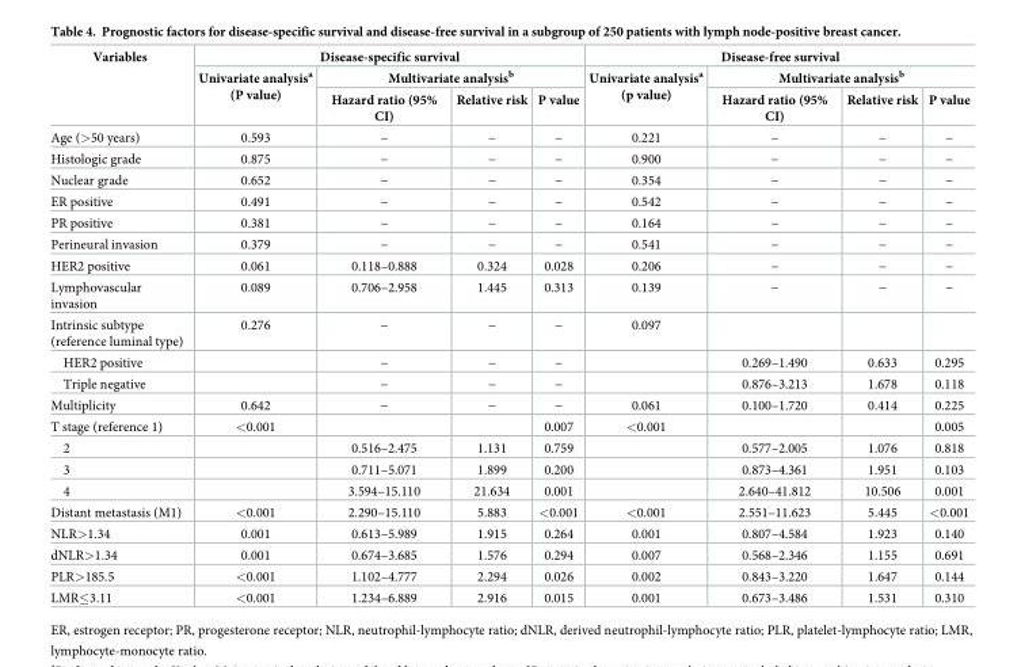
<table><thead><tr><td rowspan="3">Variables</td><td colspan="4">Disease-specific survival</td><td colspan="4">Disease-free survival</td></tr><tr><td rowspan="2">Univariate analysis<sup>a</sup> (P value)</td><td colspan="3">Multivariate analysis<sup>b</sup></td><td rowspan="2">Univariate analysis<sup>a</sup> (p value)</td><td colspan="3">Multivariate analysis<sup>b</sup></td></tr><tr><td>Hazard ratio (95% CI)</td><td>Relative risk</td><td>P value</td><td>Hazard ratio (95% CI)</td><td>Relative risk</td><td>P value</td></tr></thead><tbody><tr><td>Age (&gt;50 years)</td><td>0.593</td><td>−</td><td>−</td><td>−</td><td>0.221</td><td>−</td><td>−</td><td>−</td></tr><tr><td>Histologic grade</td><td>0.875</td><td>−</td><td>−</td><td>−</td><td>0.900</td><td>−</td><td>−</td><td>−</td></tr><tr><td>Nuclear grade</td><td>0.652</td><td>−</td><td>−</td><td>−</td><td>0.354</td><td>−</td><td>−</td><td>−</td></tr><tr><td>ER positive</td><td>0.491</td><td>−</td><td>−</td><td>−</td><td>0.542</td><td>−</td><td>−</td><td>−</td></tr><tr><td>PR positive</td><td>0.381</td><td>−</td><td>−</td><td>−</td><td>0.164</td><td>−</td><td>−</td><td>−</td></tr><tr><td>Perineural invasion</td><td>0.379</td><td>−</td><td>−</td><td>−</td><td>0.541</td><td>−</td><td>−</td><td>−</td></tr><tr><td>HER2 positive</td><td>0.061</td><td>0.118–0.888</td><td>0.324</td><td>0.028</td><td>0.206</td><td>−</td><td>−</td><td>−</td></tr><tr><td>Lymphovascular invasion</td><td>0.089</td><td>0.706–2.958</td><td>1.445</td><td>0.313</td><td>0.139</td><td>−</td><td>−</td><td>−</td></tr><tr><td>Intrinsic subtype (reference luminal type)</td><td>0.276</td><td>−</td><td>−</td><td>−</td><td>0.097</td><td></td><td></td><td></td></tr><tr><td>HER2 positive</td><td></td><td>−</td><td>−</td><td>−</td><td></td><td>0.269–1.490</td><td>0.633</td><td>0.295</td></tr><tr><td>Triple negative</td><td></td><td>−</td><td>−</td><td>−</td><td></td><td>0.876–3.213</td><td>1.678</td><td>0.118</td></tr><tr><td>Multiplicity</td><td>0.642</td><td>−</td><td>−</td><td>−</td><td>0.061</td><td>0.100–1.720</td><td>0.414</td><td>0.225</td></tr><tr><td>T stage (reference 1)</td><td>&lt;0.001</td><td></td><td></td><td>0.007</td><td>&lt;0.001</td><td></td><td></td><td>0.005</td></tr><tr><td>2</td><td></td><td>0.516–2.475</td><td>1.131</td><td>0.759</td><td></td><td>0.577–2.005</td><td>1.076</td><td>0.818</td></tr><tr><td>3</td><td></td><td>0.711–5.071</td><td>1.899</td><td>0.200</td><td></td><td>0.873–4.361</td><td>1.951</td><td>0.103</td></tr><tr><td>4</td><td></td><td>3.594–15.110</td><td>21.634</td><td>0.001</td><td></td><td>2.640–41.812</td><td>10.506</td><td>0.001</td></tr><tr><td>Distant metastasis (M1)</td><td>&lt;0.001</td><td>2.290–15.110</td><td>5.883</td><td>&lt;0.001</td><td>&lt;0.001</td><td>2.551–11.623</td><td>5.445</td><td>&lt;0.001</td></tr><tr><td>NLR&gt;1.34</td><td>0.001</td><td>0.613–5.989</td><td>1.915</td><td>0.264</td><td>0.001</td><td>0.807–4.584</td><td>1.923</td><td>0.140</td></tr><tr><td>dNLR&gt;1.34</td><td>0.001</td><td>0.674–3.685</td><td>1.576</td><td>0.294</td><td>0.007</td><td>0.568–2.346</td><td>1.155</td><td>0.691</td></tr><tr><td>PLR&gt;185.5</td><td>&lt;0.001</td><td>1.102–4.777</td><td>2.294</td><td>0.026</td><td>0.002</td><td>0.843–3.220</td><td>1.647</td><td>0.144</td></tr><tr><td>LMR≤3.11</td><td>&lt;0.001</td><td>1.234–6.889</td><td>2.916</td><td>0.015</td><td>0.001</td><td>0.673–3.486</td><td>1.531</td><td>0.310</td></tr></tbody></table>